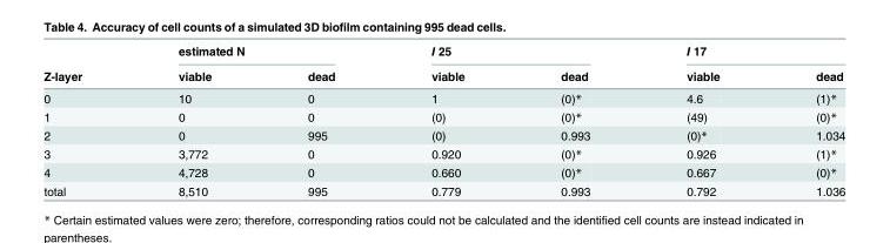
<table><thead><tr><td rowspan="2">Z-layer</td><td colspan="2">estimated N</td><td colspan="2">I 25</td><td colspan="2">I 17</td></tr><tr><td>viable</td><td>dead</td><td>viable</td><td>dead</td><td>viable</td><td>dead</td></tr></thead><tbody><tr><td>0</td><td>10</td><td>0</td><td>1</td><td>(0)*</td><td>4.6</td><td>(1)*</td></tr><tr><td>1</td><td>0</td><td>0</td><td>(0)</td><td>(0)*</td><td>(49)</td><td>(0)*</td></tr><tr><td>2</td><td>0</td><td>995</td><td>(0)</td><td>0.993</td><td>(0)*</td><td>1.034</td></tr><tr><td>3</td><td>3,772</td><td>0</td><td>0.920</td><td>(0)*</td><td>0.926</td><td>(1)*</td></tr><tr><td>4</td><td>4,728</td><td>0</td><td>0.660</td><td>(0)*</td><td>0.667</td><td>(0)*</td></tr><tr><td>total</td><td>8,510</td><td>995</td><td>0.779</td><td>0.993</td><td>0.792</td><td>1.036</td></tr></tbody></table>